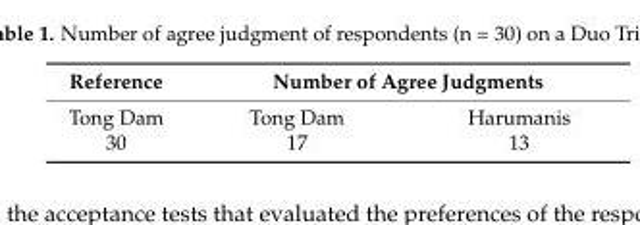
<table><thead><tr><td rowspan="2">Reference Tong Dam</td><td colspan="2">Number of Agree Judgments</td></tr><tr><td>Tong Dam</td><td>Harumanis</td></tr></thead><tbody><tr><td>30</td><td>17</td><td>13</td></tr></tbody></table>